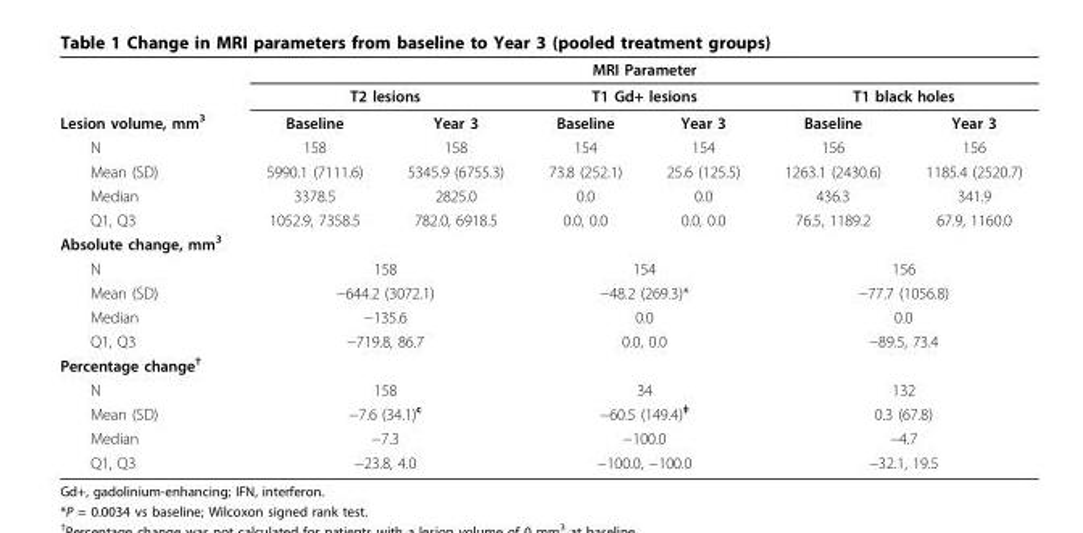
<table><thead><tr><td rowspan="3">Lesion volume, mm<sup>3</sup></td><td colspan="6">MRI Parameter</td></tr><tr><td colspan="2">T2 lesions</td><td colspan="2">T1 Gd+ lesions</td><td colspan="2">T1 black holes</td></tr><tr><td>Baseline</td><td>Year 3</td><td>Baseline</td><td>Year 3</td><td>Baseline</td><td>Year 3</td></tr></thead><tbody><tr><td>N</td><td>158</td><td>158</td><td>154</td><td>154</td><td>156</td><td>156</td></tr><tr><td>Mean (SD)</td><td>5990.1 (7111.6)</td><td>5345.9 (6755.3)</td><td>73.8 (252.1)</td><td>25.6 (125.5)</td><td>1263.1 (2430.6)</td><td>1185.4 (2520.7)</td></tr><tr><td>Median</td><td>3378.5</td><td>2825.0</td><td>0.0</td><td>0.0</td><td>436.3</td><td>341.9</td></tr><tr><td>Q1, Q3</td><td>1052.9, 7358.5</td><td>782.0, 6918.5</td><td>0.0, 0.0</td><td>0.0, 0.0</td><td>76.5, 1189.2</td><td>67.9, 1160.0</td></tr><tr><td colspan="7">Absolute change, mm<sup>3</sup></td></tr><tr><td>N</td><td colspan="2">158</td><td colspan="2">154</td><td colspan="2">156</td></tr><tr><td>Mean (SD)</td><td colspan="2">−644.2 (3072.1)</td><td colspan="2">−48.2 (269.3)*</td><td colspan="2">−77.7 (1056.8)</td></tr><tr><td>Median</td><td colspan="2">−135.6</td><td colspan="2">0.0</td><td colspan="2">0.0</td></tr><tr><td>Q1, Q3</td><td colspan="2">−719.8, 86.7</td><td colspan="2">0.0, 0.0</td><td colspan="2">−89.5, 73.4</td></tr><tr><td colspan="7">Percentage change<sup>†</sup></td></tr><tr><td>N</td><td colspan="2">158</td><td colspan="2">34</td><td colspan="2">132</td></tr><tr><td>Mean (SD)</td><td colspan="2">−7.6 (34.1)<sup>c</sup></td><td colspan="2">−60.5 (149.4)<sup>‡</sup></td><td colspan="2">0.3 (67.8)</td></tr><tr><td>Median</td><td colspan="2">−7.3</td><td colspan="2">−100.0</td><td colspan="2">−4.7</td></tr><tr><td>Q1, Q3</td><td colspan="2">−23.8, 4.0</td><td colspan="2">−100.0, −100.0</td><td colspan="2">−32.1, 19.5</td></tr></tbody></table>